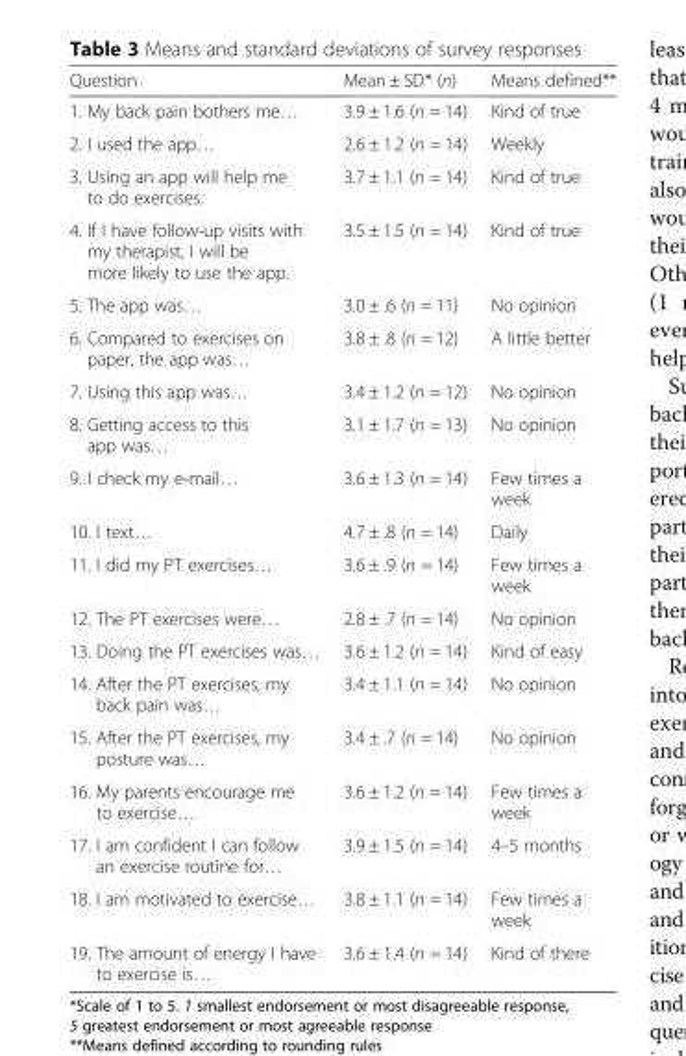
<table><thead><tr><td>Question</td><td>Mean ± SD* (n)</td><td>Means defined**</td></tr></thead><tbody><tr><td>1. My back pain bothers me…</td><td>3.9 ± 1.6 (n = 14)</td><td>Kind of true</td></tr><tr><td>2. I used the app…</td><td>2.6 ± 1.2 (n = 14)</td><td>Weekly</td></tr><tr><td>3. Using an app will help me to do exercises.</td><td>3.7 ± 1.1 (n = 14)</td><td>Kind of true</td></tr><tr><td>4. If I have follow-up visits with my therapist, I will be more likely to use the app.</td><td>3.5 ± 1.5 (n = 14)</td><td>Kind of true</td></tr><tr><td>5. The app was…</td><td>3.0 ± .6 (n = 11)</td><td>No opinion</td></tr><tr><td>6. Compared to exercises on paper, the app was…</td><td>3.8 ± .8 (n = 12)</td><td>A little better</td></tr><tr><td>7. Using this app was…</td><td>3.4 ± 1.2 (n = 12)</td><td>No opinion</td></tr><tr><td>8. Getting access to this app was…</td><td>3.1 ± 1.7 (n = 13)</td><td>No opinion</td></tr><tr><td>9. I check my e-mail…</td><td>3.6 ± 1.3 (n = 14)</td><td>Few times a week</td></tr><tr><td>10. I text…</td><td>4.7 ± .8 (n = 14)</td><td>Daily</td></tr><tr><td>11. I did my PT exercises…</td><td>3.6 ± .9 (n = 14)</td><td>Few times a week</td></tr><tr><td>12. The PT exercises were…</td><td>2.8 ± .7 (n = 14)</td><td>No opinion</td></tr><tr><td>13. Doing the PT exercises was…</td><td>3.6 ± 1.2 (n = 14)</td><td>Kind of easy</td></tr><tr><td>14. After the PT exercises, my back pain was…</td><td>3.4 ± 1.1 (n = 14)</td><td>No opinion</td></tr><tr><td>15. After the PT exercises, my posture was…</td><td>3.4 ± .7 (n = 14)</td><td>No opinion</td></tr><tr><td>16. My parents encourage me to exercise…</td><td>3.6 ± 1.2 (n = 14)</td><td>Few times a week</td></tr><tr><td>17. I am confident I can follow an exercise routine for…</td><td>3.9 ± 1.5 (n = 14)</td><td>4–5 months</td></tr><tr><td>18. I am motivated to exercise…</td><td>3.8 ± 1.1 (n = 14)</td><td>Few times a week</td></tr><tr><td>19. The amount of energy I have to exercise is…</td><td>3.6 ± 1.4 (n = 14)</td><td>Kind of there</td></tr></tbody></table>